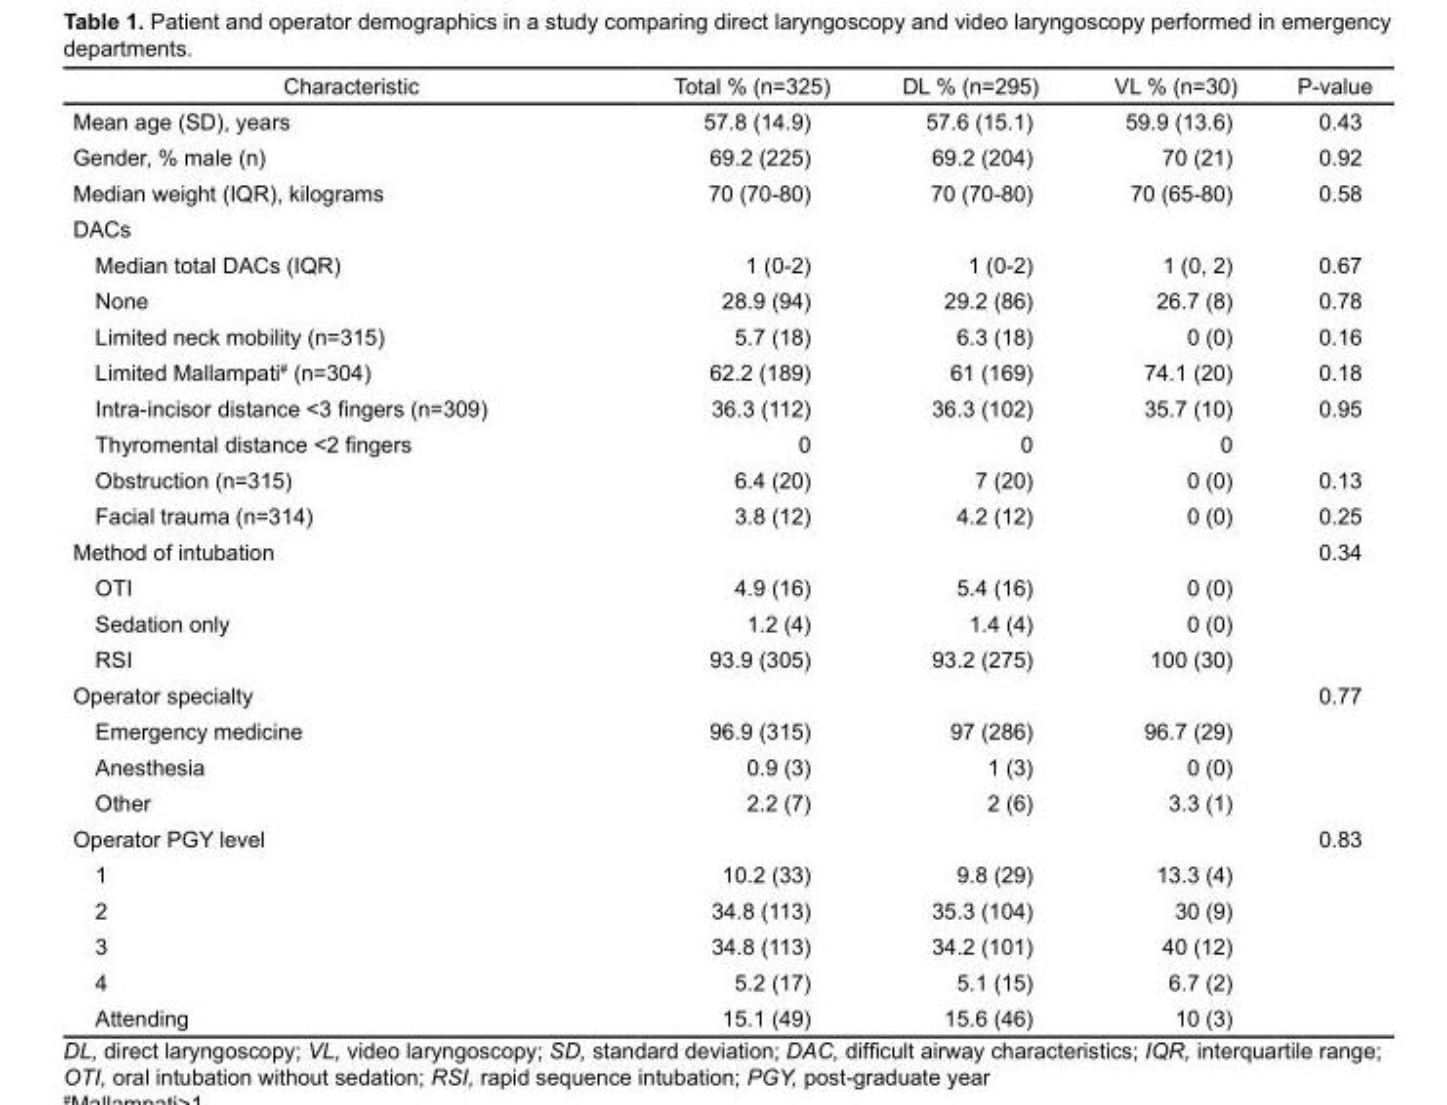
<table><thead><tr><td>Characteristic</td><td>Total % (n=325)</td><td>DL % (n=295)</td><td>VL % (n=30)</td><td>P-value</td></tr></thead><tbody><tr><td>Mean age (SD), years</td><td>57.8 (14.9)</td><td>57.6 (15.1)</td><td>59.9 (13.6)</td><td>0.43</td></tr><tr><td>Gender, % male (n)</td><td>69.2 (225)</td><td>69.2 (204)</td><td>70 (21)</td><td>0.92</td></tr><tr><td>Median weight (IQR), kilograms</td><td>70 (70-80)</td><td>70 (70-80)</td><td>70 (65-80)</td><td>0.58</td></tr><tr><td colspan="5">DACs</td></tr><tr><td>Median total DACs (IQR)</td><td>1 (0-2)</td><td>1 (0-2)</td><td>1 (0, 2)</td><td>0.67</td></tr><tr><td>None</td><td>28.9 (94)</td><td>29.2 (86)</td><td>26.7 (8)</td><td>0.78</td></tr><tr><td>Limited neck mobility (n=315)</td><td>5.7 (18)</td><td>6.3 (18)</td><td>0 (0)</td><td>0.16</td></tr><tr><td>Limited Mallampati# (n=304)</td><td>62.2 (189)</td><td>61 (169)</td><td>74.1 (20)</td><td>0.18</td></tr><tr><td>Intra-incisor distance &lt;3 fingers (n=309)</td><td>36.3 (112)</td><td>36.3 (102)</td><td>35.7 (10)</td><td>0.95</td></tr><tr><td>Thyromental distance &lt;2 fingers</td><td>0</td><td>0</td><td>0</td><td></td></tr><tr><td>Obstruction (n=315)</td><td>6.4 (20)</td><td>7 (20)</td><td>0 (0)</td><td>0.13</td></tr><tr><td>Facial trauma (n=314)</td><td>3.8 (12)</td><td>4.2 (12)</td><td>0 (0)</td><td>0.25</td></tr><tr><td>Method of intubation</td><td></td><td></td><td></td><td>0.34</td></tr><tr><td>OTI</td><td>4.9 (16)</td><td>5.4 (16)</td><td>0 (0)</td><td></td></tr><tr><td>Sedation only</td><td>1.2 (4)</td><td>1.4 (4)</td><td>0 (0)</td><td></td></tr><tr><td>RSI</td><td>93.9 (305)</td><td>93.2 (275)</td><td>100 (30)</td><td></td></tr><tr><td>Operator specialty</td><td></td><td></td><td></td><td>0.77</td></tr><tr><td>Emergency medicine</td><td>96.9 (315)</td><td>97 (286)</td><td>96.7 (29)</td><td></td></tr><tr><td>Anesthesia</td><td>0.9 (3)</td><td>1 (3)</td><td>0 (0)</td><td></td></tr><tr><td>Other</td><td>2.2 (7)</td><td>2 (6)</td><td>3.3 (1)</td><td></td></tr><tr><td>Operator PGY level</td><td></td><td></td><td></td><td>0.83</td></tr><tr><td>1</td><td>10.2 (33)</td><td>9.8 (29)</td><td>13.3 (4)</td><td></td></tr><tr><td>2</td><td>34.8 (113)</td><td>35.3 (104)</td><td>30 (9)</td><td></td></tr><tr><td>3</td><td>34.8 (113)</td><td>34.2 (101)</td><td>40 (12)</td><td></td></tr><tr><td>4</td><td>5.2 (17)</td><td>5.1 (15)</td><td>6.7 (2)</td><td></td></tr><tr><td>Attending</td><td>15.1 (49)</td><td>15.6 (46)</td><td>10 (3)</td><td></td></tr></tbody></table>